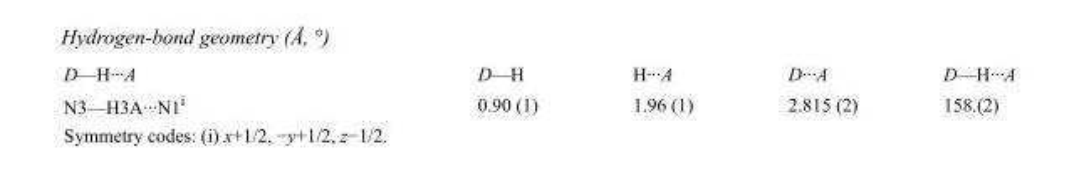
<table><tbody><tr><td>D—H···A</td><td>D—H</td><td>H···A</td><td>D···A</td><td>D—H···A</td></tr><tr><td>N3—H3A···N1<sup>i</sup></td><td>0.90 (1)</td><td>1.96 (1)</td><td>2.815 (2)</td><td>158.(2)</td></tr></tbody></table>